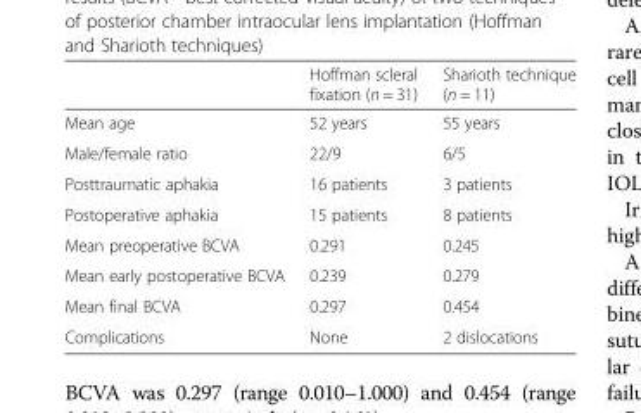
<table><thead><tr><td></td><td>Hoffman scleral fixation (n = 31)</td><td>Sharioth technique (n = 11)</td></tr></thead><tbody><tr><td>Mean age</td><td>52 years</td><td>55 years</td></tr><tr><td>Male/female ratio</td><td>22/9</td><td>6/5</td></tr><tr><td>Posttraumatic aphakia</td><td>16 patients</td><td>3 patients</td></tr><tr><td>Postoperative aphakia</td><td>15 patients</td><td>8 patients</td></tr><tr><td>Mean preoperative BCVA</td><td>0.291</td><td>0.245</td></tr><tr><td>Mean early postoperative BCVA</td><td>0.239</td><td>0.279</td></tr><tr><td>Mean final BCVA</td><td>0.297</td><td>0.454</td></tr><tr><td>Complications</td><td>None</td><td>2 dislocations</td></tr></tbody></table>